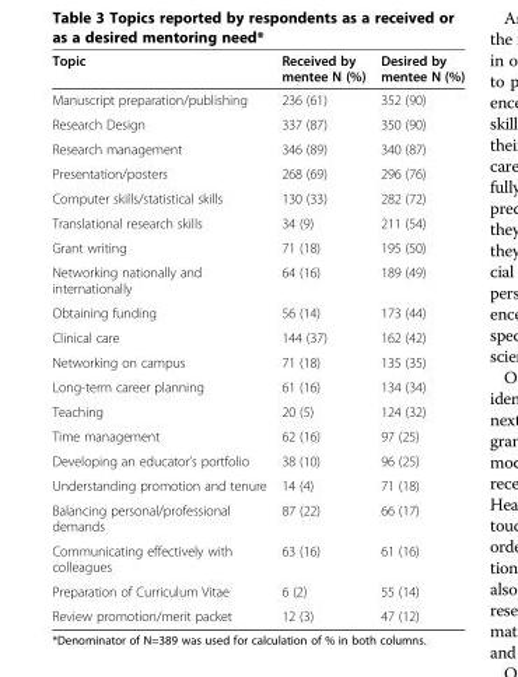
<table><thead><tr><td>Topic</td><td>Received by mentee N (%)</td><td>Desired by mentee N (%)</td></tr></thead><tbody><tr><td>Manuscript preparation/publishing</td><td>236 (61)</td><td>352 (90)</td></tr><tr><td>Research Design</td><td>337 (87)</td><td>350 (90)</td></tr><tr><td>Research management</td><td>346 (89)</td><td>340 (87)</td></tr><tr><td>Presentation/posters</td><td>268 (69)</td><td>296 (76)</td></tr><tr><td>Computer skills/statistical skills</td><td>130 (33)</td><td>282 (72)</td></tr><tr><td>Translational research skills</td><td>34 (9)</td><td>211 (54)</td></tr><tr><td>Grant writing</td><td>71 (18)</td><td>195 (50)</td></tr><tr><td>Networking nationally and internationally</td><td>64 (16)</td><td>189 (49)</td></tr><tr><td>Obtaining funding</td><td>56 (14)</td><td>173 (44)</td></tr><tr><td>Clinical care</td><td>144 (37)</td><td>162 (42)</td></tr><tr><td>Networking on campus</td><td>71 (18)</td><td>135 (35)</td></tr><tr><td>Long-term career planning</td><td>61 (16)</td><td>134 (34)</td></tr><tr><td>Teaching</td><td>20 (5)</td><td>124 (32)</td></tr><tr><td>Time management</td><td>62 (16)</td><td>97 (25)</td></tr><tr><td>Developing an educator’s portfolio</td><td>38 (10)</td><td>96 (25)</td></tr><tr><td>Understanding promotion and tenure</td><td>14 (4)</td><td>71 (18)</td></tr><tr><td>Balancing personal/professional demands</td><td>87 (22)</td><td>66 (17)</td></tr><tr><td>Communicating effectively with colleagues</td><td>63 (16)</td><td>61 (16)</td></tr><tr><td>Preparation of Curriculum Vitae</td><td>6 (2)</td><td>55 (14)</td></tr><tr><td>Review promotion/merit packet</td><td>12 (3)</td><td>47 (12)</td></tr></tbody></table>